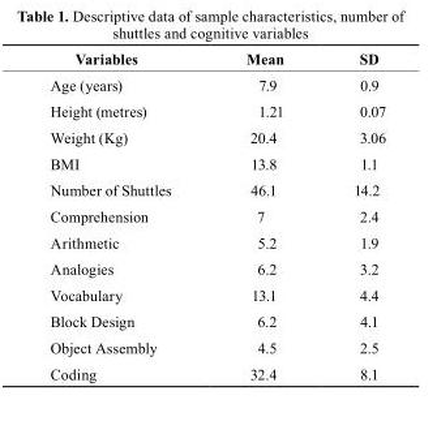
<table><thead><tr><td>Variables</td><td>Mean</td><td>SD</td></tr></thead><tbody><tr><td>Age (years)</td><td>7.9</td><td>0.9</td></tr><tr><td>Height (metres)</td><td>1.21</td><td>0.07</td></tr><tr><td>Weight (Kg)</td><td>20.4</td><td>3.06</td></tr><tr><td>BMI</td><td>13.8</td><td>1.1</td></tr><tr><td>Number of Shuttles</td><td>46.1</td><td>14.2</td></tr><tr><td>Comprehension</td><td>7</td><td>2.4</td></tr><tr><td>Arithmetic</td><td>5.2</td><td>1.9</td></tr><tr><td>Analogies</td><td>6.2</td><td>3.2</td></tr><tr><td>Vocabulary</td><td>13.1</td><td>4.4</td></tr><tr><td>Block Design</td><td>6.2</td><td>4.1</td></tr><tr><td>Object Assembly</td><td>4.5</td><td>2.5</td></tr><tr><td>Coding</td><td>32.4</td><td>8.1</td></tr></tbody></table>